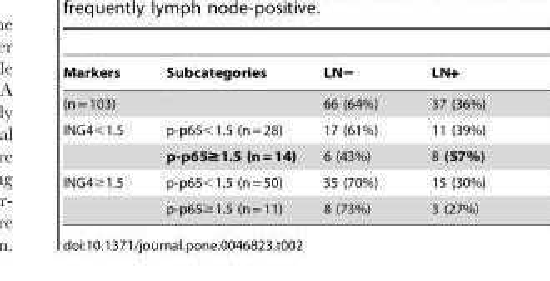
<table><thead><tr><td>Markers</td><td>Subcategories</td><td>LN−</td><td>LN+</td></tr></thead><tbody><tr><td>(n = 103)</td><td></td><td>66 (64%)</td><td>37 (36%)</td></tr><tr><td rowspan="2">ING4&lt;1.5</td><td>p-p65&lt;1.5 (n = 28)</td><td>17 (61%)</td><td>11 (39%)</td></tr><tr><td>p-p65≥1.5 (n = 14)</td><td>6 (43%)</td><td>8 (57%)</td></tr><tr><td rowspan="2">ING4≥1.5</td><td>p-p65&lt;1.5 (n = 50)</td><td>35 (70%)</td><td>15 (30%)</td></tr><tr><td>p-p65≥1.5 (n = 11)</td><td>8 (73%)</td><td>3 (27%)</td></tr></tbody></table>